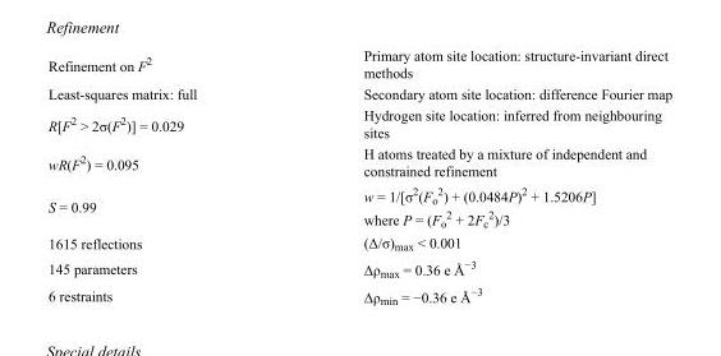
<table><tbody><tr><td>Refinement on F<sup>2</sup></td><td>Primary atom site location: structure-invariant direct methods</td></tr><tr><td>Least-squares matrix: full</td><td>Secondary atom site location: difference Fourier map</td></tr><tr><td>R[F<sup>2</sup> &gt; 2σ(F<sup>2</sup>)] = 0.029</td><td>Hydrogen site location: inferred from neighbouring sites</td></tr><tr><td>wR(F<sup>2</sup>) = 0.095</td><td>H atoms treated by a mixture of independent and constrained refinement</td></tr><tr><td>S = 0.99</td><td>w = 1/[σ<sup>2</sup>(F<sub>o</sub> <sup>2</sup>) + (0.0484P)<sup>2</sup> + 1.5206P] where P = (F<sub>o</sub> <sup>2</sup> + 2F<sub>c</sub> <sup>2</sup>)/3</td></tr><tr><td>1615 reflections</td><td>(Δ/σ)<sub>max</sub> &lt; 0.001</td></tr><tr><td>145 parameters</td><td>Δρ<sub>max</sub> = 0.36 e Å<sup>−3</sup></td></tr><tr><td>6 restraints</td><td>Δρ<sub>min</sub> = −0.36 e Å<sup>−3</sup></td></tr></tbody></table>